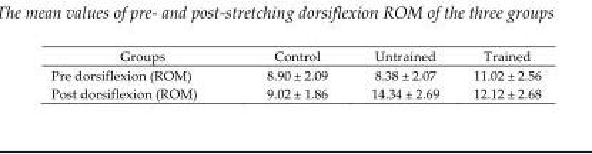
<table><thead><tr><td>Groups</td><td>Control</td><td>Untrained</td><td>Trained</td></tr></thead><tbody><tr><td>Pre dorsiflexion (ROM)</td><td>8.90 ± 2.09</td><td>8.38 ± 2.07</td><td>11.02 ± 2.56</td></tr><tr><td>Post dorsiflexion (ROM)</td><td>9.02 ± 1.86</td><td>14.34 ± 2.69</td><td>12.12 ± 2.68</td></tr></tbody></table>